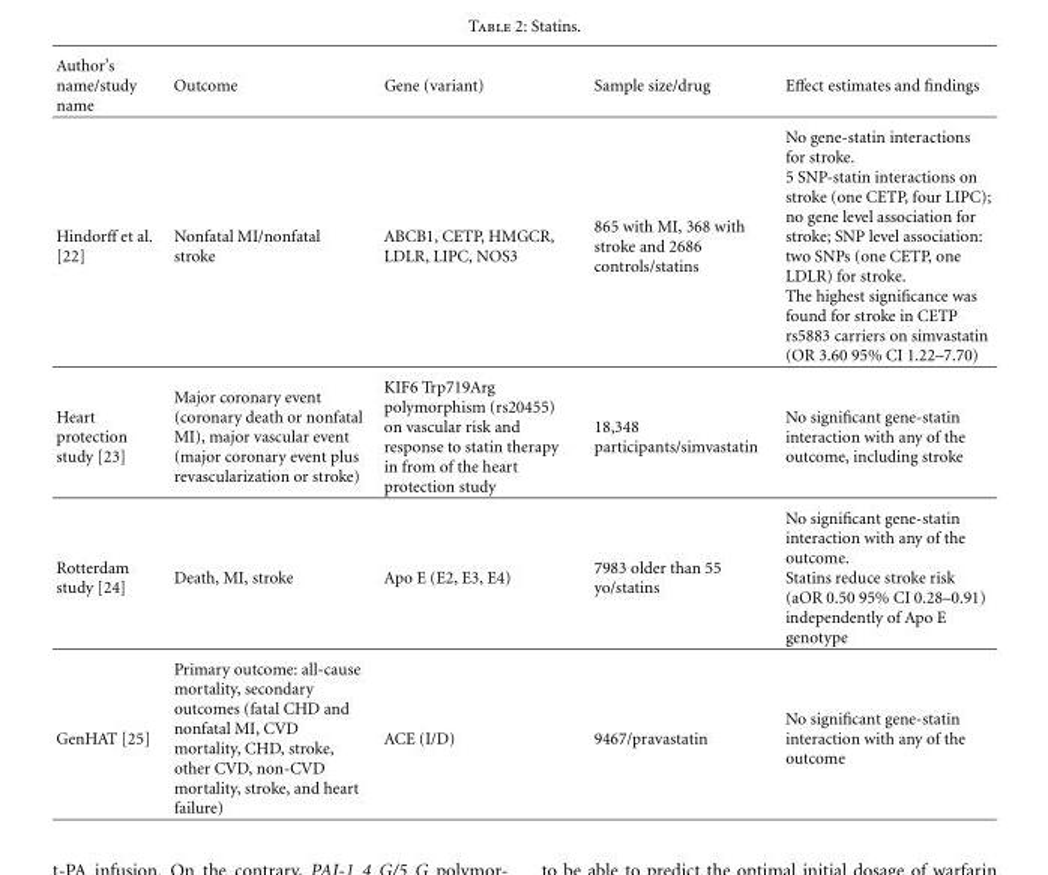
<table><thead><tr><td>Author’s name/study name</td><td>Outcome</td><td>Gene (variant)</td><td>Sample size/drug</td><td>Effect estimates and findings</td></tr></thead><tbody><tr><td>Hindorff et al. [22]</td><td>Nonfatal MI/nonfatal stroke</td><td>ABCB1, CETP, HMGCR, LDLR, LIPC, NOS3</td><td>865 with MI, 368 with stroke and 2686 controls/statins</td><td>No gene-statin interactions for stroke. 5 SNP-statin interactions on stroke (one CETP, four LIPC); no gene level association for stroke; SNP level association: two SNPs (one CETP, one LDLR) for stroke. The highest significance was found for stroke in CETP rs5883 carriers on simvastatin (OR 3.60 95% CI 1.22–7.70)</td></tr><tr><td>Heart protection study [23]</td><td>Major coronary event (coronary death or nonfatal MI), major vascular event (major coronary event plus revascularization or stroke)</td><td>KIF6 Trp719Arg polymorphism (rs20455) on vascular risk and response to statin therapy in from of the heart protection study</td><td>18,348 participants/simvastatin</td><td>No significant gene-statin interaction with any of the outcome, including stroke</td></tr><tr><td>Rotterdam study [24]</td><td>Death, MI, stroke</td><td>Apo E (E2, E3, E4)</td><td>7983 older than 55 yo/statins</td><td>No significant gene-statin interaction with any of the outcome. Statins reduce stroke risk (aOR 0.50 95% CI 0.28–0.91) independently of Apo E genotype</td></tr><tr><td>GenHAT [25]</td><td>Primary outcome: all-cause mortality, secondary outcomes (fatal CHD and nonfatal MI, CVD mortality, CHD, stroke, other CVD, non-CVD mortality, stroke, and heart failure)</td><td>ACE (I/D)</td><td>9467/pravastatin</td><td>No significant gene-statin interaction with any of the outcome</td></tr></tbody></table>